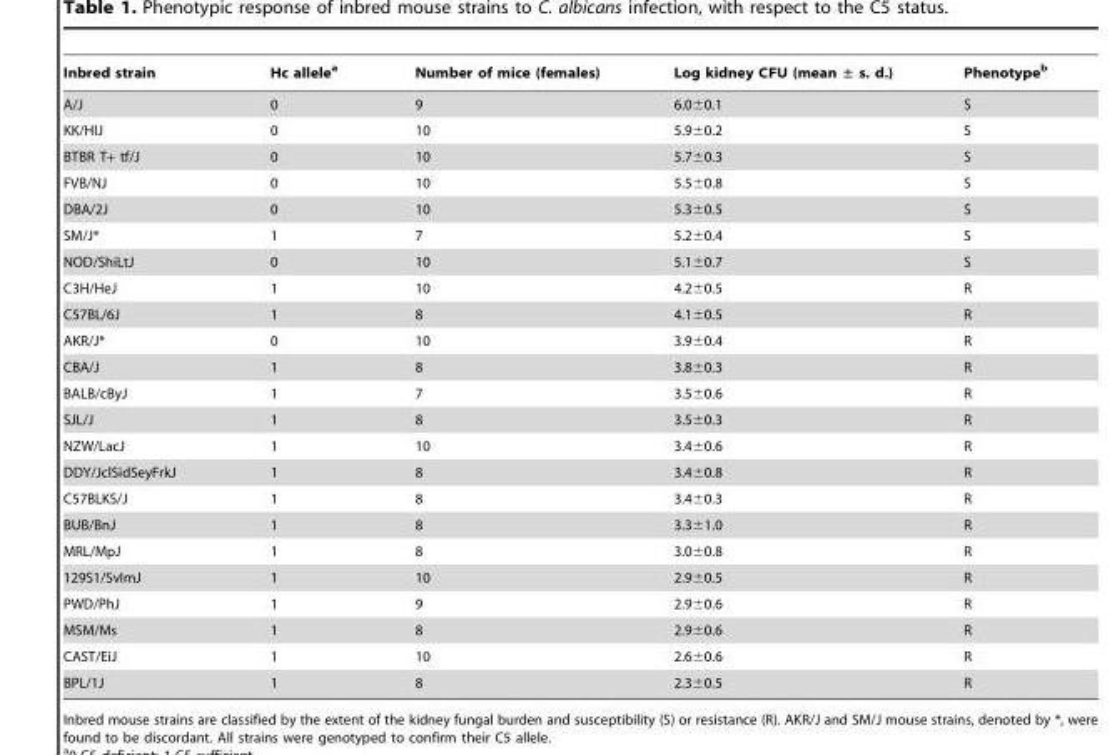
<table><thead><tr><td>Inbred strain</td><td>Hc allele<sup>a</sup></td><td>Number of mice (females)</td><td>Log kidney CFU (mean ± s. d.)</td><td>Phenotype<sup>b</sup></td></tr></thead><tbody><tr><td>A/J</td><td>0</td><td>9</td><td>6.0±0.1</td><td>S</td></tr><tr><td>KK/HlJ</td><td>0</td><td>10</td><td>5.9±0.2</td><td>S</td></tr><tr><td>BTBR T+ tf/J</td><td>0</td><td>10</td><td>5.7±0.3</td><td>S</td></tr><tr><td>FVB/NJ</td><td>0</td><td>10</td><td>5.5±0.8</td><td>S</td></tr><tr><td>DBA/2J</td><td>0</td><td>10</td><td>5.3±0.5</td><td>S</td></tr><tr><td>SM/J*</td><td>1</td><td>7</td><td>5.2±0.4</td><td>S</td></tr><tr><td>NOD/ShiLtJ</td><td>0</td><td>10</td><td>5.1±0.7</td><td>S</td></tr><tr><td>C3H/HeJ</td><td>1</td><td>10</td><td>4.2±0.5</td><td>R</td></tr><tr><td>C57BL/6J</td><td>1</td><td>8</td><td>4.1±0.5</td><td>R</td></tr><tr><td>AKR/J*</td><td>0</td><td>10</td><td>3.9±0.4</td><td>R</td></tr><tr><td>CBA/J</td><td>1</td><td>8</td><td>3.8±0.3</td><td>R</td></tr><tr><td>BALB/cByJ</td><td>1</td><td>7</td><td>3.5±0.6</td><td>R</td></tr><tr><td>SJL/J</td><td>1</td><td>8</td><td>3.5±0.3</td><td>R</td></tr><tr><td>NZW/LacJ</td><td>1</td><td>10</td><td>3.4±0.6</td><td>R</td></tr><tr><td>DDY/JclSidSeyFrkJ</td><td>1</td><td>8</td><td>3.4±0.8</td><td>R</td></tr><tr><td>C57BLKS/J</td><td>1</td><td>8</td><td>3.4±0.3</td><td>R</td></tr><tr><td>BUB/BnJ</td><td>1</td><td>8</td><td>3.3±1.0</td><td>R</td></tr><tr><td>MRL/MpJ</td><td>1</td><td>8</td><td>3.0±0.8</td><td>R</td></tr><tr><td>129S1/SvImJ</td><td>1</td><td>10</td><td>2.9±0.5</td><td>R</td></tr><tr><td>PWD/PhJ</td><td>1</td><td>9</td><td>2.9±0.6</td><td>R</td></tr><tr><td>MSM/Ms</td><td>1</td><td>8</td><td>2.9±0.6</td><td>R</td></tr><tr><td>CAST/EiJ</td><td>1</td><td>10</td><td>2.6±0.6</td><td>R</td></tr><tr><td>BPL/1J</td><td>1</td><td>8</td><td>2.3±0.5</td><td>R</td></tr></tbody></table>